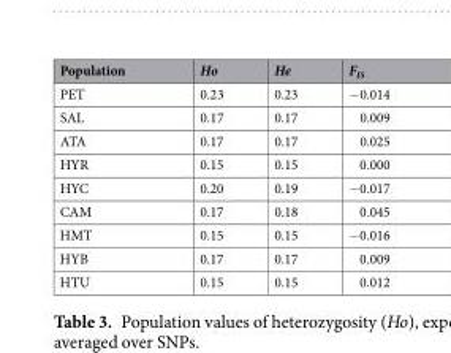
<table><thead><tr><td>Population</td><td>Ho</td><td>He</td><td>F<sub>IS</sub></td></tr></thead><tbody><tr><td>PET</td><td>0.23</td><td>0.23</td><td>−0.014</td></tr><tr><td>SAL</td><td>0.17</td><td>0.17</td><td>0.009</td></tr><tr><td>ATA</td><td>0.17</td><td>0.17</td><td>0.025</td></tr><tr><td>HYR</td><td>0.15</td><td>0.15</td><td>0.000</td></tr><tr><td>HYC</td><td>0.20</td><td>0.19</td><td>−0.017</td></tr><tr><td>CAM</td><td>0.17</td><td>0.18</td><td>0.045</td></tr><tr><td>HMT</td><td>0.15</td><td>0.15</td><td>−0.016</td></tr><tr><td>HYB</td><td>0.17</td><td>0.17</td><td>0.009</td></tr><tr><td>HTU</td><td>0.15</td><td>0.15</td><td>0.012</td></tr></tbody></table>